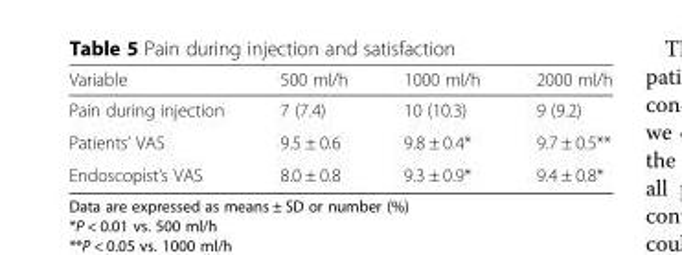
<table><thead><tr><td>Variable</td><td>500 ml/h</td><td>1000 ml/h</td><td>2000 ml/h</td></tr></thead><tbody><tr><td>Pain during injection</td><td>7 (7.4)</td><td>10 (10.3)</td><td>9 (9.2)</td></tr><tr><td>Patients’ VAS</td><td>9.5 ± 0.6</td><td>9.8 ± 0.4*</td><td>9.7 ± 0.5**</td></tr><tr><td>Endoscopist’s VAS</td><td>8.0 ± 0.8</td><td>9.3 ± 0.9*</td><td>9.4 ± 0.8*</td></tr></tbody></table>